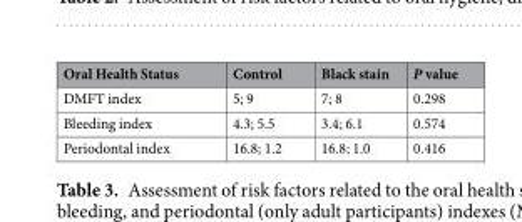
<table><thead><tr><td>Oral Health Status</td><td>Control</td><td>Black stain</td><td>P value</td></tr></thead><tbody><tr><td>DMFT index</td><td>5; 9</td><td>7; 8</td><td>0.298</td></tr><tr><td>Bleeding index</td><td>4.3; 5.5</td><td>3.4; 6.1</td><td>0.574</td></tr><tr><td>Periodontal index</td><td>16.8; 1.2</td><td>16.8; 1.0</td><td>0.416</td></tr></tbody></table>